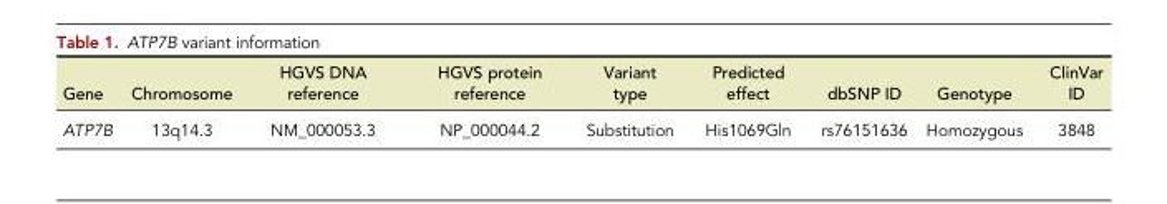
<table><thead><tr><td>Gene</td><td>Chromosome</td><td>HGVS DNA reference</td><td>HGVS protein reference</td><td>Variant type</td><td>Predicted effect</td><td>dbSNP ID</td><td>Genotype</td><td>ClinVar ID</td></tr></thead><tbody><tr><td>ATP7B</td><td>13q14.3</td><td>NM_000053.3</td><td>NP_000044.2</td><td>Substitution</td><td>His1069Gln</td><td>rs76151636</td><td>Homozygous</td><td>3848</td></tr></tbody></table>